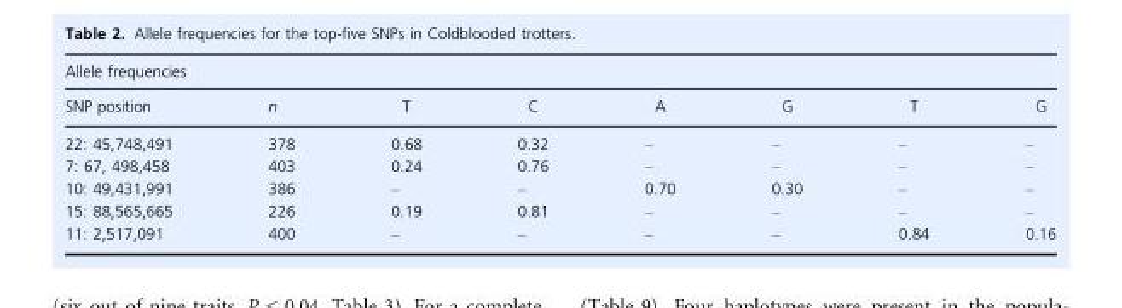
<table><thead><tr><td colspan="8">Allele frequencies</td></tr><tr><td>SNP position</td><td>n</td><td>T</td><td>C</td><td>A</td><td>G</td><td>T</td><td>G</td></tr></thead><tbody><tr><td>22: 45,748,491</td><td>378</td><td>0.68</td><td>0.32</td><td>–</td><td>–</td><td>–</td><td>–</td></tr><tr><td>7: 67, 498,458</td><td>403</td><td>0.24</td><td>0.76</td><td>–</td><td>–</td><td>–</td><td>–</td></tr><tr><td>10: 49,431,991</td><td>386</td><td>–</td><td>–</td><td>0.70</td><td>0.30</td><td>–</td><td>–</td></tr><tr><td>15: 88,565,665</td><td>226</td><td>0.19</td><td>0.81</td><td>–</td><td>–</td><td>–</td><td>–</td></tr><tr><td>11: 2,517,091</td><td>400</td><td>–</td><td>–</td><td>–</td><td>–</td><td>0.84</td><td>0.16</td></tr></tbody></table>